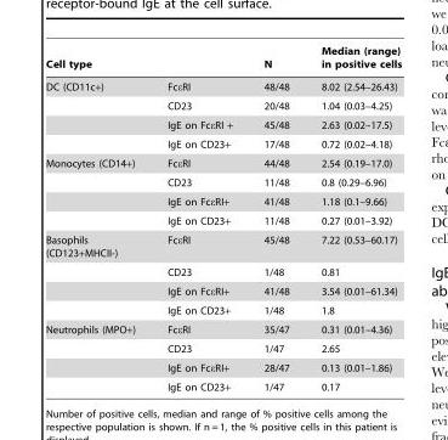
<table><thead><tr><td>Cell type</td><td></td><td>N</td><td>Median (range) in positive cells</td></tr></thead><tbody><tr><td rowspan="4">DC (CD11c+)</td><td>FcεRI</td><td>48/48</td><td>8.02 (2.54–26.43)</td></tr><tr><td>CD23</td><td>20/48</td><td>1.04 (0.03–4.25)</td></tr><tr><td>IgE on FcεRI +</td><td>45/48</td><td>2.63 (0.02–17.5)</td></tr><tr><td>IgE on CD23+</td><td>17/48</td><td>0.72 (0.02–4.18)</td></tr><tr><td rowspan="4">Monocytes (CD14+)</td><td>FcεRI</td><td>44/48</td><td>2.54 (0.19–17.0)</td></tr><tr><td>CD23</td><td>11/48</td><td>0.8 (0.29–6.96)</td></tr><tr><td>IgE on FcεRI+</td><td>41/48</td><td>1.18 (0.1–9.66)</td></tr><tr><td>IgE on CD23+</td><td>11/48</td><td>0.27 (0.01–3.92)</td></tr><tr><td rowspan="4">Basophils (CD123+MHCII-)</td><td>FcεRI</td><td>45/48</td><td>7.22 (0.53–60.17)</td></tr><tr><td>CD23</td><td>1/48</td><td>0.81</td></tr><tr><td>IgE on FcεRI+</td><td>41/48</td><td>3.54 (0.01–61.34)</td></tr><tr><td>IgE on CD23+</td><td>1/48</td><td>1.8</td></tr><tr><td rowspan="4">Neutrophils (MPO+)</td><td>FcεRI</td><td>35/47</td><td>0.31 (0.01–4.36)</td></tr><tr><td>CD23</td><td>1/47</td><td>2.65</td></tr><tr><td>IgE on FcεRI+</td><td>28/47</td><td>0.13 (0.01–1.86)</td></tr><tr><td>IgE on CD23+</td><td>1/47</td><td>0.17</td></tr></tbody></table>